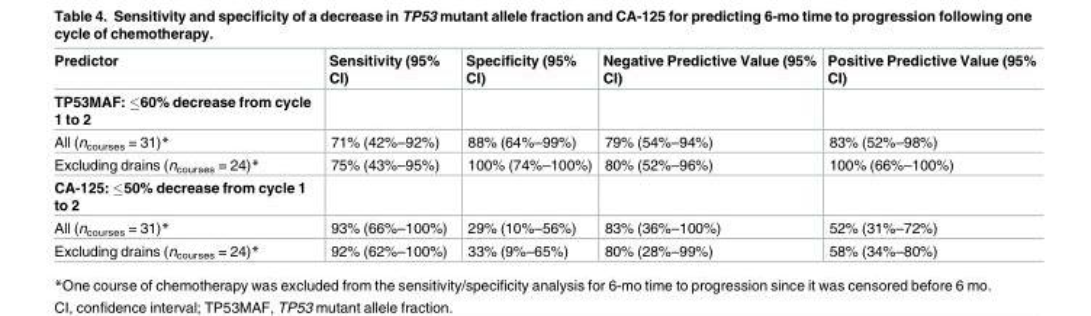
<table><thead><tr><td>Predictor</td><td>Sensitivity (95% CI)</td><td>Specificity (95% CI)</td><td>Negative Predictive Value (95% CI)</td><td>Positive Predictive Value (95% CI)</td></tr></thead><tbody><tr><td colspan="5">TP53MAF: ≤60% decrease from cycle 1 to 2</td></tr><tr><td>All (n<sub>courses</sub> = 31)*</td><td>71% (42%–92%)</td><td>88% (64%–99%)</td><td>79% (54%–94%)</td><td>83% (52%–98%)</td></tr><tr><td>Excluding drains (n<sub>courses</sub> = 24)*</td><td>75% (43%–95%)</td><td>100% (74%–100%)</td><td>80% (52%–96%)</td><td>100% (66%–100%)</td></tr><tr><td colspan="5">CA-125: ≤50% decrease from cycle 1 to 2</td></tr><tr><td>All (n<sub>courses</sub> = 31)*</td><td>93% (66%–100%)</td><td>29% (10%–56%)</td><td>83% (36%–100%)</td><td>52% (31%–72%)</td></tr><tr><td>Excluding drains (n<sub>courses</sub> = 24)*</td><td>92% (62%–100%)</td><td>33% (9%–65%)</td><td>80% (28%–99%)</td><td>58% (34%–80%)</td></tr></tbody></table>